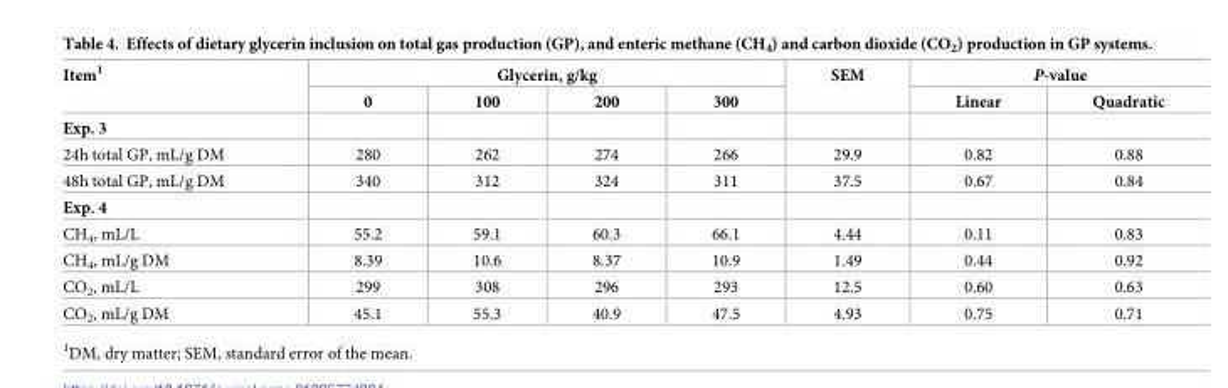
<table><thead><tr><td rowspan="2">Item<sup>1</sup></td><td colspan="4">Glycerin, g/kg</td><td rowspan="2">SEM</td><td colspan="2">P-value</td></tr><tr><td>0</td><td>100</td><td>200</td><td>300</td><td>Linear</td><td>Quadratic</td></tr></thead><tbody><tr><td colspan="8">Exp. 3</td></tr><tr><td>24h total GP, mL/g DM</td><td>280</td><td>262</td><td>274</td><td>266</td><td>29.9</td><td>0.82</td><td>0.88</td></tr><tr><td>48h total GP, mL/g DM</td><td>340</td><td>312</td><td>324</td><td>311</td><td>37.5</td><td>0.67</td><td>0.84</td></tr><tr><td colspan="8">Exp. 4</td></tr><tr><td>CH<sub>4</sub>, mL/L</td><td>55.2</td><td>59.1</td><td>60.3</td><td>66.1</td><td>4.44</td><td>0.11</td><td>0.83</td></tr><tr><td>CH<sub>4</sub>, mL/g DM</td><td>8.39</td><td>10.6</td><td>8.37</td><td>10.9</td><td>1.49</td><td>0.44</td><td>0.92</td></tr><tr><td>CO<sub>2</sub>, mL/L</td><td>299</td><td>308</td><td>296</td><td>293</td><td>12.5</td><td>0.60</td><td>0.63</td></tr><tr><td>CO<sub>2</sub>, mL/g DM</td><td>45.1</td><td>55.3</td><td>40.9</td><td>47.5</td><td>4.93</td><td>0.75</td><td>0.71</td></tr></tbody></table>